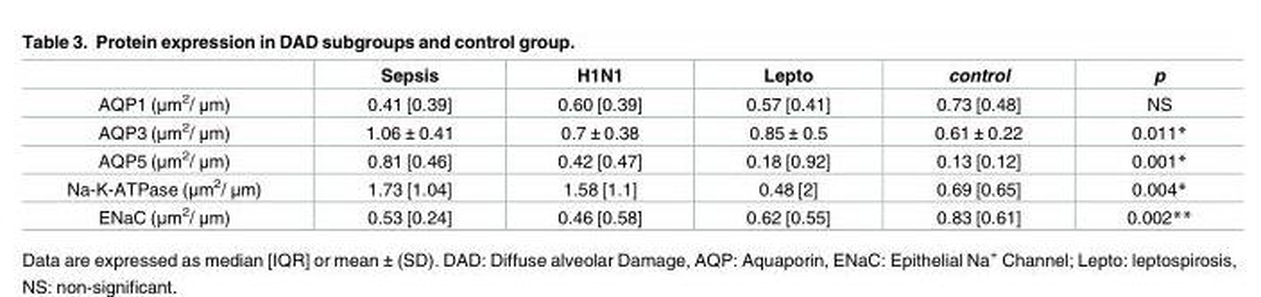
<table><thead><tr><td></td><td>Sepsis</td><td>H1N1</td><td>Lepto</td><td>control</td><td>p</td></tr></thead><tbody><tr><td>AQP1 (μm<sup>2</sup>/ μm)</td><td>0.41 [0.39]</td><td>0.60 [0.39]</td><td>0.57 [0.41]</td><td>0.73 [0.48]</td><td>NS</td></tr><tr><td>AQP3 (μm<sup>2</sup>/ μm)</td><td>1.06 ± 0.41</td><td>0.7 ± 0.38</td><td>0.85 ± 0.5</td><td>0.61 ± 0.22</td><td>0.011*</td></tr><tr><td>AQP5 (μm<sup>2</sup>/ μm)</td><td>0.81 [0.46]</td><td>0.42 [0.47]</td><td>0.18 [0.92]</td><td>0.13 [0.12]</td><td>0.001*</td></tr><tr><td>Na-K-ATPase (μm<sup>2</sup>/ μm)</td><td>1.73 [1.04]</td><td>1.58 [1.1]</td><td>0.48 [2]</td><td>0.69 [0.65]</td><td>0.004*</td></tr><tr><td>ENaC (μm<sup>2</sup>/ μm)</td><td>0.53 [0.24]</td><td>0.46 [0.58]</td><td>0.62 [0.55]</td><td>0.83 [0.61]</td><td>0.002**</td></tr></tbody></table>